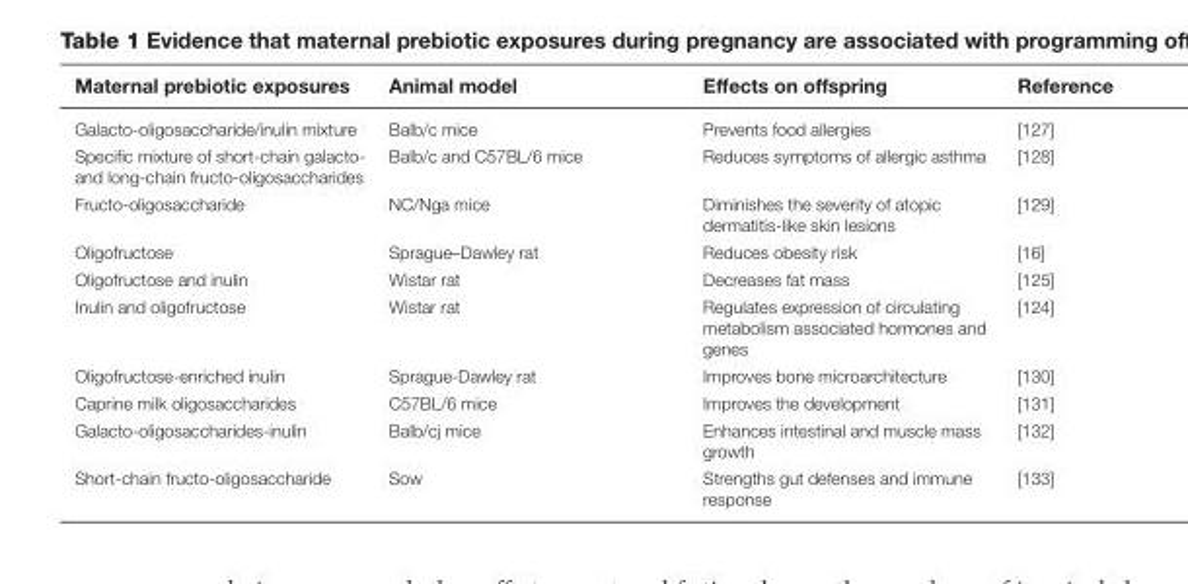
<table><thead><tr><td>Maternal prebiotic exposures</td><td>Animal model</td><td>Effects on offspring</td><td>Reference</td></tr></thead><tbody><tr><td>Galacto-oligosaccharide/inulin mixture</td><td>Balb/c mice</td><td>Prevents food allergies</td><td>[127]</td></tr><tr><td>Specific mixture of short-chain galacto- and long-chain fructo-oligosaccharides</td><td>Balb/c and C57BL/6 mice</td><td>Reduces symptoms of allergic asthma</td><td>[128]</td></tr><tr><td>Fructo-oligosaccharide</td><td>NC/Nga mice</td><td>Diminishes the severity of atopic dermatitis-like skin lesions</td><td>[129]</td></tr><tr><td>Oligofructose</td><td>Sprague–Dawley rat</td><td>Reduces obesity risk</td><td>[16]</td></tr><tr><td>Oligofructose and inulin</td><td>Wistar rat</td><td>Decreases fat mass</td><td>[125]</td></tr><tr><td>Inulin and oligofructose</td><td>Wistar rat</td><td>Regulates expression of circulating metabolism associated hormones and genes</td><td>[124]</td></tr><tr><td>Oligofructose-enriched inulin</td><td>Sprague-Dawley rat</td><td>Improves bone microarchitecture</td><td>[130]</td></tr><tr><td>Caprine milk oligosaccharides</td><td>C57BL/6 mice</td><td>Improves the development</td><td>[131]</td></tr><tr><td>Galacto-oligosaccharides-inulin</td><td>Balb/cj mice</td><td>Enhances intestinal and muscle mass growth</td><td>[132]</td></tr><tr><td>Short-chain fructo-oligosaccharide</td><td>Sow</td><td>Strengths gut defenses and immune response</td><td>[133]</td></tr></tbody></table>